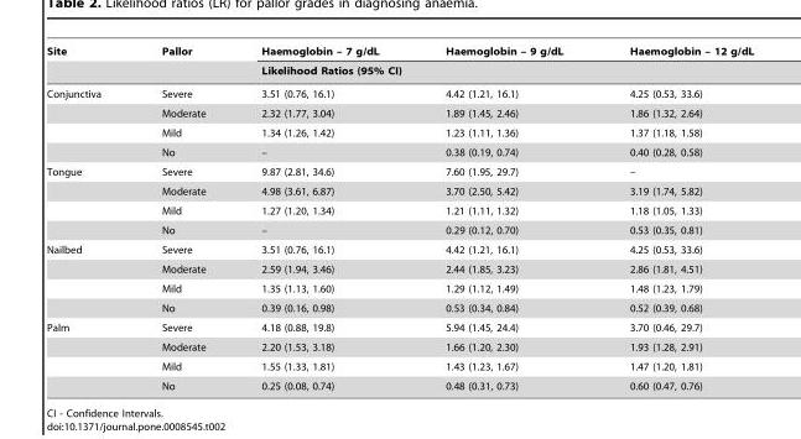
<table><thead><tr><td rowspan="2">Site</td><td rowspan="2">Pallor</td><td>Haemoglobin – 7 g/dL</td><td>Haemoglobin – 9 g/dL</td><td>Haemoglobin – 12 g/dL</td></tr><tr><td colspan="3">Likelihood Ratios (95% CI)</td></tr></thead><tbody><tr><td rowspan="4">Conjunctiva</td><td>Severe</td><td>3.51 (0.76, 16.1)</td><td>4.42 (1.21, 16.1)</td><td>4.25 (0.53, 33.6)</td></tr><tr><td>Moderate</td><td>2.32 (1.77, 3.04)</td><td>1.89 (1.45, 2.46)</td><td>1.86 (1.32, 2.64)</td></tr><tr><td>Mild</td><td>1.34 (1.26, 1.42)</td><td>1.23 (1.11, 1.36)</td><td>1.37 (1.18, 1.58)</td></tr><tr><td>No</td><td>–</td><td>0.38 (0.19, 0.74)</td><td>0.40 (0.28, 0.58)</td></tr><tr><td rowspan="4">Tongue</td><td>Severe</td><td>9.87 (2.81, 34.6)</td><td>7.60 (1.95, 29.7)</td><td>–</td></tr><tr><td>Moderate</td><td>4.98 (3.61, 6.87)</td><td>3.70 (2.50, 5.42)</td><td>3.19 (1.74, 5.82)</td></tr><tr><td>Mild</td><td>1.27 (1.20, 1.34)</td><td>1.21 (1.11, 1.32)</td><td>1.18 (1.05, 1.33)</td></tr><tr><td>No</td><td>–</td><td>0.29 (0.12, 0.70)</td><td>0.53 (0.35, 0.81)</td></tr><tr><td rowspan="4">Nailbed</td><td>Severe</td><td>3.51 (0.76, 16.1)</td><td>4.42 (1.21, 16.1)</td><td>4.25 (0.53, 33.6)</td></tr><tr><td>Moderate</td><td>2.59 (1.94, 3.46)</td><td>2.44 (1.85, 3.23)</td><td>2.86 (1.81, 4.51)</td></tr><tr><td>Mild</td><td>1.35 (1.13, 1.60)</td><td>1.29 (1.12, 1.49)</td><td>1.48 (1.23, 1.79)</td></tr><tr><td>No</td><td>0.39 (0.16, 0.98)</td><td>0.53 (0.34, 0.84)</td><td>0.52 (0.39, 0.68)</td></tr><tr><td rowspan="4">Palm</td><td>Severe</td><td>4.18 (0.88, 19.8)</td><td>5.94 (1.45, 24.4)</td><td>3.70 (0.46, 29.7)</td></tr><tr><td>Moderate</td><td>2.20 (1.53, 3.18)</td><td>1.66 (1.20, 2.30)</td><td>1.93 (1.28, 2.91)</td></tr><tr><td>Mild</td><td>1.55 (1.33, 1.81)</td><td>1.43 (1.23, 1.67)</td><td>1.47 (1.20, 1.81)</td></tr><tr><td>No</td><td>0.25 (0.08, 0.74)</td><td>0.48 (0.31, 0.73)</td><td>0.60 (0.47, 0.76)</td></tr></tbody></table>